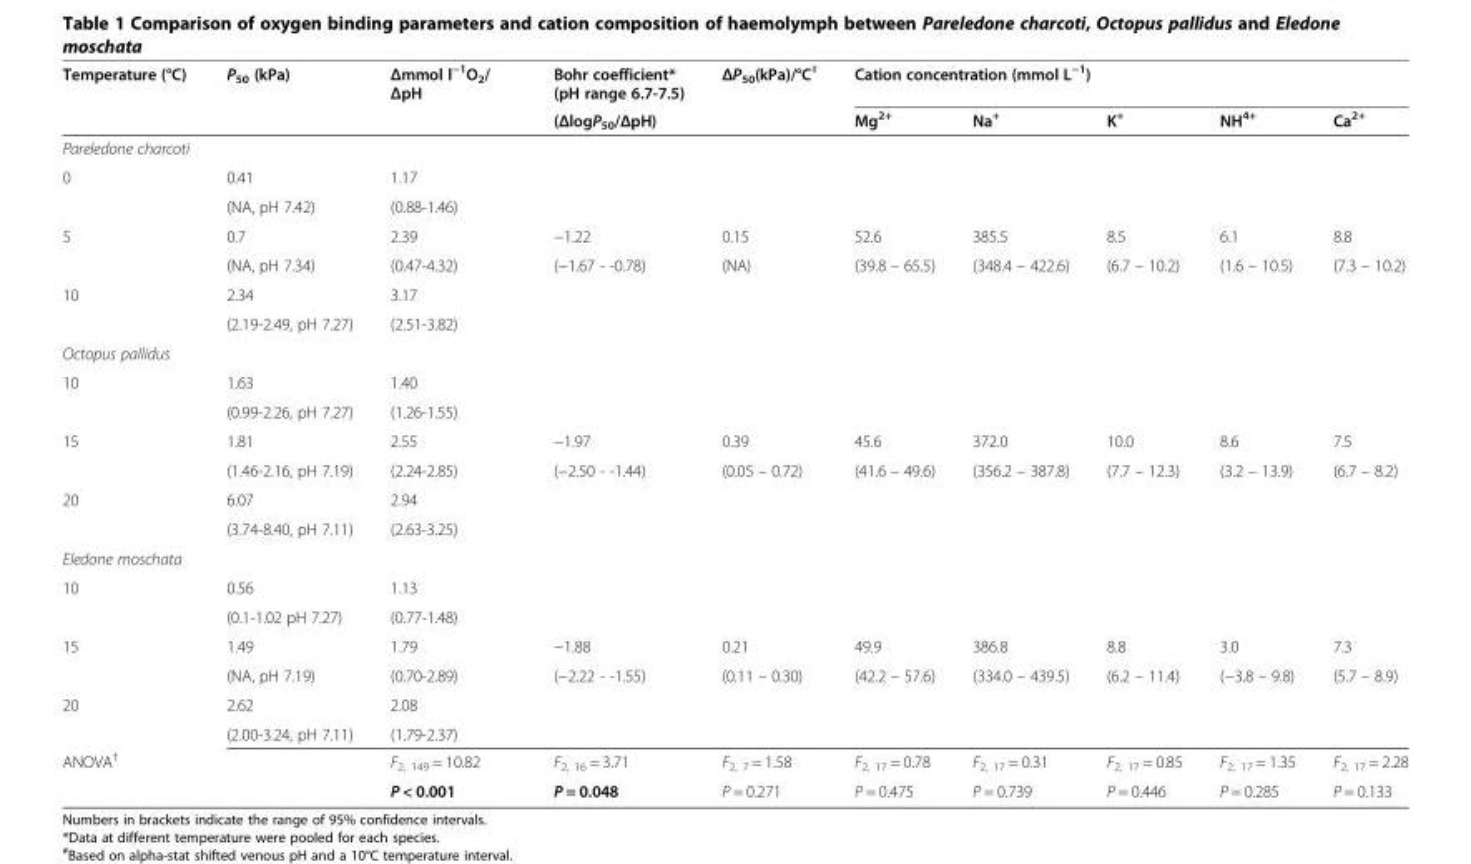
<table><thead><tr><td rowspan="2">Temperature (°C)</td><td rowspan="2">P<sub>50</sub> (kPa)</td><td rowspan="2">Δmmol l<sup>−1</sup>O<sub>2</sub>/ ΔpH</td><td rowspan="2">Bohr coefficient* (pH range 6.7-7.5) (ΔlogP<sub>50</sub>/ΔpH)</td><td rowspan="2">ΔP<sub>50</sub>(kPa)/°C<sup>#</sup></td><td colspan="5">Cation concentration (mmol L<sup>−1</sup>)</td></tr><tr><td>Mg<sup>2+</sup></td><td>Na<sup>+</sup></td><td>K<sup>+</sup></td><td>NH<sup>4+</sup></td><td>Ca<sup>2+</sup></td></tr></thead><tbody><tr><td colspan="10">Pareledone charcoti</td></tr><tr><td rowspan="2">0</td><td>0.41</td><td>1.17</td><td></td><td></td><td></td><td></td><td></td><td></td><td></td></tr><tr><td>(NA, pH 7.42)</td><td>(0.88-1.46)</td><td></td><td></td><td></td><td></td><td></td><td></td><td></td></tr><tr><td rowspan="2">5</td><td>0.7</td><td>2.39</td><td>−1.22</td><td>0.15</td><td>52.6</td><td>385.5</td><td>8.5</td><td>6.1</td><td>8.8</td></tr><tr><td>(NA, pH 7.34)</td><td>(0.47-4.32)</td><td>(−1.67 - -0.78)</td><td>(NA)</td><td>(39.8 – 65.5)</td><td>(348.4 – 422.6)</td><td>(6.7 – 10.2)</td><td>(1.6 – 10.5)</td><td>(7.3 – 10.2)</td></tr><tr><td rowspan="2">10</td><td>2.34</td><td>3.17</td><td rowspan="2"></td><td rowspan="2"></td><td rowspan="2"></td><td rowspan="2"></td><td rowspan="2"></td><td rowspan="2"></td><td rowspan="2"></td></tr><tr><td>(2.19-2.49, pH 7.27)</td><td>(2.51-3.82)</td></tr><tr><td colspan="10">Octopus pallidus</td></tr><tr><td rowspan="2">10</td><td>1.63</td><td>1.40</td><td></td><td></td><td></td><td></td><td></td><td></td><td></td></tr><tr><td>(0.99-2.26, pH 7.27)</td><td>(1.26-1.55)</td><td></td><td></td><td></td><td></td><td></td><td></td><td></td></tr><tr><td rowspan="2">15</td><td>1.81</td><td>2.55</td><td>−1.97</td><td>0.39</td><td>45.6</td><td>372.0</td><td>10.0</td><td>8.6</td><td>7.5</td></tr><tr><td>(1.46-2.16, pH 7.19)</td><td>(2.24-2.85)</td><td>(−2.50 - -1.44)</td><td>(0.05 – 0.72)</td><td>(41.6 – 49.6)</td><td>(356.2 – 387.8)</td><td>(7.7 – 12.3)</td><td>(3.2 – 13.9)</td><td>(6.7 – 8.2)</td></tr><tr><td rowspan="2">20</td><td>6.07</td><td>2.94</td><td rowspan="2"></td><td rowspan="2"></td><td rowspan="2"></td><td rowspan="2"></td><td rowspan="2"></td><td rowspan="2"></td><td rowspan="2"></td></tr><tr><td>(3.74-8.40, pH 7.11)</td><td>(2.63-3.25)</td></tr><tr><td colspan="10">Eledone moschata</td></tr><tr><td rowspan="2">10</td><td>0.56</td><td>1.13</td><td></td><td></td><td></td><td></td><td></td><td></td><td></td></tr><tr><td>(0.1-1.02 pH 7.27)</td><td>(0.77-1.48)</td><td></td><td></td><td></td><td></td><td></td><td></td><td></td></tr><tr><td rowspan="2">15</td><td>1.49</td><td>1.79</td><td>−1.88</td><td>0.21</td><td>49.9</td><td>386.8</td><td>8.8</td><td>3.0</td><td>7.3</td></tr><tr><td>(NA, pH 7.19)</td><td>(0.70-2.89)</td><td>(−2.22 - -1.55)</td><td>(0.11 – 0.30)</td><td>(42.2 – 57.6)</td><td>(334.0 – 439.5)</td><td>(6.2 – 11.4)</td><td>(−3.8 – 9.8)</td><td>(5.7 – 8.9)</td></tr><tr><td rowspan="2">20</td><td>2.62</td><td>2.08</td><td></td><td></td><td></td><td></td><td></td><td></td><td></td></tr><tr><td>(2.00-3.24, pH 7.11)</td><td>(1.79-2.37)</td><td></td><td></td><td></td><td></td><td></td><td></td><td></td></tr><tr><td rowspan="2">ANOVA<sup>†</sup></td><td rowspan="2"></td><td>F<sub>2, 149</sub> = 10.82</td><td>F<sub>2, 16</sub> = 3.71</td><td>F<sub>2, 7</sub> = 1.58</td><td>F<sub>2, 17</sub> = 0.78</td><td>F<sub>2, 17</sub> = 0.31</td><td>F<sub>2, 17</sub> = 0.85</td><td>F<sub>2, 17</sub> = 1.35</td><td>F<sub>2, 17</sub> = 2.28</td></tr><tr><td>P &lt; 0.001</td><td>P = 0.048</td><td>P = 0.271</td><td>P = 0.475</td><td>P = 0.739</td><td>P = 0.446</td><td>P = 0.285</td><td>P = 0.133</td></tr></tbody></table>